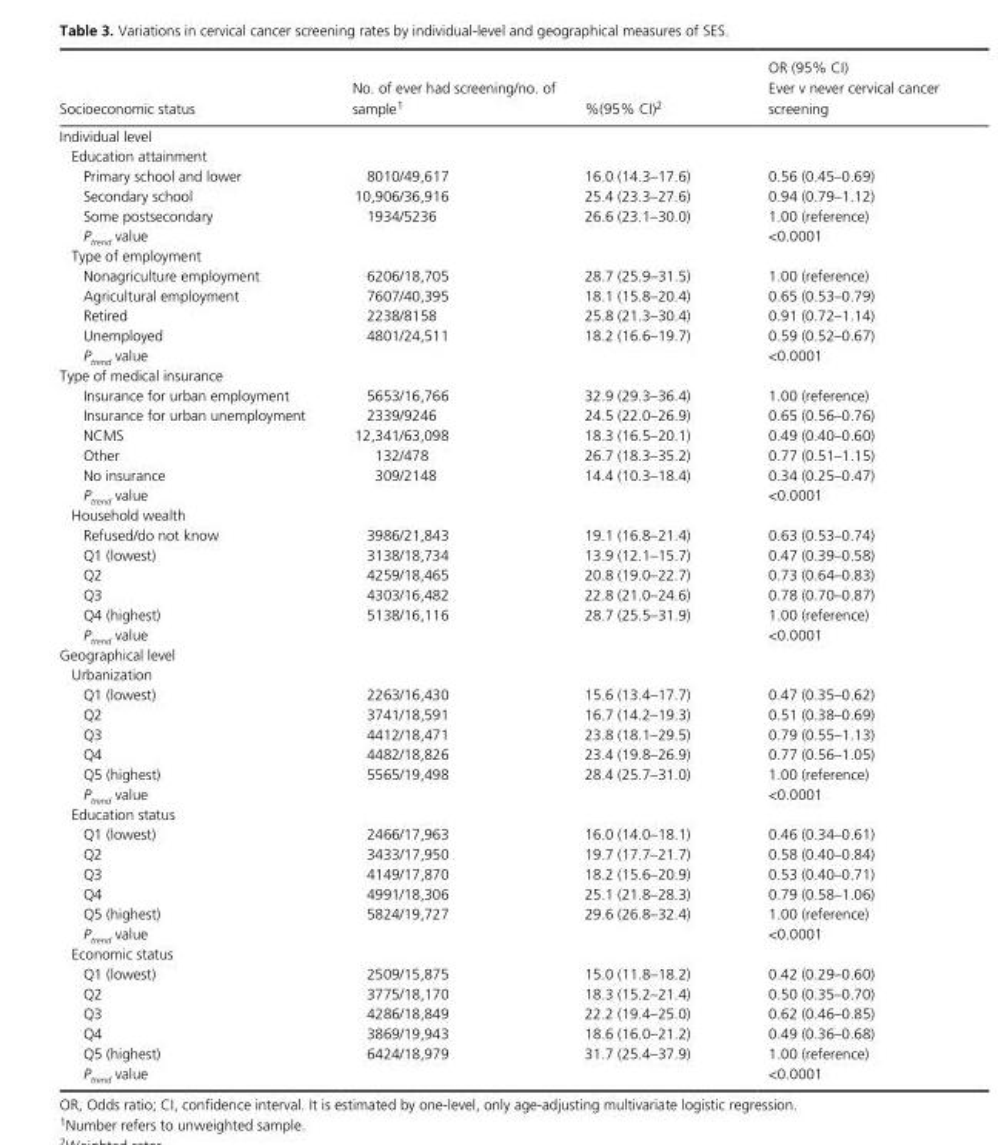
<table><thead><tr><td>Socioeconomic status</td><td>No. of ever had screening/no. of sample1</td><td>%(95% CI)2</td><td>OR (95% CI) Ever v never cervical cancer screening</td></tr></thead><tbody><tr><td colspan="4">Individual level</td></tr><tr><td colspan="4">Education attainment</td></tr><tr><td>Primary school and lower</td><td>8010/49,617</td><td>16.0 (14.3–17.6)</td><td>0.56 (0.45–0.69)</td></tr><tr><td>Secondary school</td><td>10,906/36,916</td><td>25.4 (23.3–27.6)</td><td>0.94 (0.79–1.12)</td></tr><tr><td>Some postsecondary</td><td>1934/5236</td><td>26.6 (23.1–30.0)</td><td>1.00 (reference)</td></tr><tr><td>P<sub>trend</sub> value</td><td></td><td></td><td>&lt;0.0001</td></tr><tr><td colspan="4">Type of employment</td></tr><tr><td>Nonagriculture employment</td><td>6206/18,705</td><td>28.7 (25.9–31.5)</td><td>1.00 (reference)</td></tr><tr><td>Agricultural employment</td><td>7607/40,395</td><td>18.1 (15.8–20.4)</td><td>0.65 (0.53–0.79)</td></tr><tr><td>Retired</td><td>2238/8158</td><td>25.8 (21.3–30.4)</td><td>0.91 (0.72–1.14)</td></tr><tr><td>Unemployed</td><td>4801/24,511</td><td>18.2 (16.6–19.7)</td><td>0.59 (0.52–0.67)</td></tr><tr><td>P<sub>trend</sub> value</td><td></td><td></td><td>&lt;0.0001</td></tr><tr><td colspan="4">Type of medical insurance</td></tr><tr><td>Insurance for urban employment</td><td>5653/16,766</td><td>32.9 (29.3–36.4)</td><td>1.00 (reference)</td></tr><tr><td>Insurance for urban unemployment</td><td>2339/9246</td><td>24.5 (22.0–26.9)</td><td>0.65 (0.56–0.76)</td></tr><tr><td>NCMS</td><td>12,341/63,098</td><td>18.3 (16.5–20.1)</td><td>0.49 (0.40–0.60)</td></tr><tr><td>Other</td><td>132/478</td><td>26.7 (18.3–35.2)</td><td>0.77 (0.51–1.15)</td></tr><tr><td>No insurance</td><td>309/2148</td><td>14.4 (10.3–18.4)</td><td>0.34 (0.25–0.47)</td></tr><tr><td>P<sub>trend</sub> value</td><td></td><td></td><td>&lt;0.0001</td></tr><tr><td colspan="4">Household wealth</td></tr><tr><td>Refused/do not know</td><td>3986/21,843</td><td>19.1 (16.8–21.4)</td><td>0.63 (0.53–0.74)</td></tr><tr><td>Q1 (lowest)</td><td>3138/18,734</td><td>13.9 (12.1–15.7)</td><td>0.47 (0.39–0.58)</td></tr><tr><td>Q2</td><td>4259/18,465</td><td>20.8 (19.0–22.7)</td><td>0.73 (0.64–0.83)</td></tr><tr><td>Q3</td><td>4303/16,482</td><td>22.8 (21.0–24.6)</td><td>0.78 (0.70–0.87)</td></tr><tr><td>Q4 (highest)</td><td>5138/16,116</td><td>28.7 (25.5–31.9)</td><td>1.00 (reference)</td></tr><tr><td>P<sub>trend</sub> value</td><td></td><td></td><td>&lt;0.0001</td></tr><tr><td colspan="4">Geographical level</td></tr><tr><td colspan="4">Urbanization</td></tr><tr><td>Q1 (lowest)</td><td>2263/16,430</td><td>15.6 (13.4–17.7)</td><td>0.47 (0.35–0.62)</td></tr><tr><td>Q2</td><td>3741/18,591</td><td>16.7 (14.2–19.3)</td><td>0.51 (0.38–0.69)</td></tr><tr><td>Q3</td><td>4412/18,471</td><td>23.8 (18.1–29.5)</td><td>0.79 (0.55–1.13)</td></tr><tr><td>Q4</td><td>4482/18,826</td><td>23.4 (19.8–26.9)</td><td>0.77 (0.56–1.05)</td></tr><tr><td>Q5 (highest)</td><td>5565/19,498</td><td>28.4 (25.7–31.0)</td><td>1.00 (reference)</td></tr><tr><td>P<sub>trend</sub> value</td><td></td><td></td><td>&lt;0.0001</td></tr><tr><td colspan="4">Education status</td></tr><tr><td>Q1 (lowest)</td><td>2466/17,963</td><td>16.0 (14.0–18.1)</td><td>0.46 (0.34–0.61)</td></tr><tr><td>Q2</td><td>3433/17,950</td><td>19.7 (17.7–21.7)</td><td>0.58 (0.40–0.84)</td></tr><tr><td>Q3</td><td>4149/17,870</td><td>18.2 (15.6–20.9)</td><td>0.53 (0.40–0.71)</td></tr><tr><td>Q4</td><td>4991/18,306</td><td>25.1 (21.8–28.3)</td><td>0.79 (0.58–1.06)</td></tr><tr><td>Q5 (highest)</td><td>5824/19,727</td><td>29.6 (26.8–32.4)</td><td>1.00 (reference)</td></tr><tr><td>P<sub>trend</sub> value</td><td></td><td></td><td>&lt;0.0001</td></tr><tr><td colspan="4">Economic status</td></tr><tr><td>Q1 (lowest)</td><td>2509/15,875</td><td>15.0 (11.8–18.2)</td><td>0.42 (0.29–0.60)</td></tr><tr><td>Q2</td><td>3775/18,170</td><td>18.3 (15.2–21.4)</td><td>0.50 (0.35–0.70)</td></tr><tr><td>Q3</td><td>4286/18,849</td><td>22.2 (19.4–25.0)</td><td>0.62 (0.46–0.85)</td></tr><tr><td>Q4</td><td>3869/19,943</td><td>18.6 (16.0–21.2)</td><td>0.49 (0.36–0.68)</td></tr><tr><td>Q5 (highest)</td><td>6424/18,979</td><td>31.7 (25.4–37.9)</td><td>1.00 (reference)</td></tr><tr><td>P<sub>trend</sub> value</td><td></td><td></td><td>&lt;0.0001</td></tr></tbody></table>